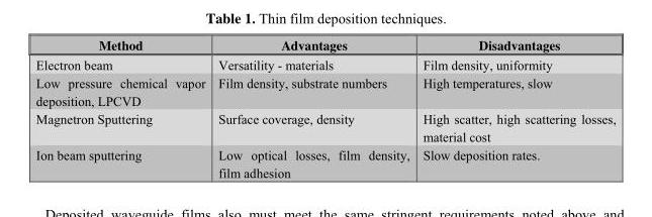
<table><thead><tr><td>Method</td><td>Advantages</td><td>Disadvantages</td></tr></thead><tbody><tr><td>Electron beam</td><td>Versatility - materials</td><td>Film density, uniformity</td></tr><tr><td>Low pressure chemical vapor deposition, LPCVD</td><td>Film density, substrate numbers</td><td>High temperatures, slow</td></tr><tr><td>Magnetron Sputtering</td><td>Surface coverage, density</td><td>High scatter, high scattering losses, material cost</td></tr><tr><td>Ion beam sputtering</td><td>Low optical losses, film density, film adhesion</td><td>Slow deposition rates.</td></tr></tbody></table>